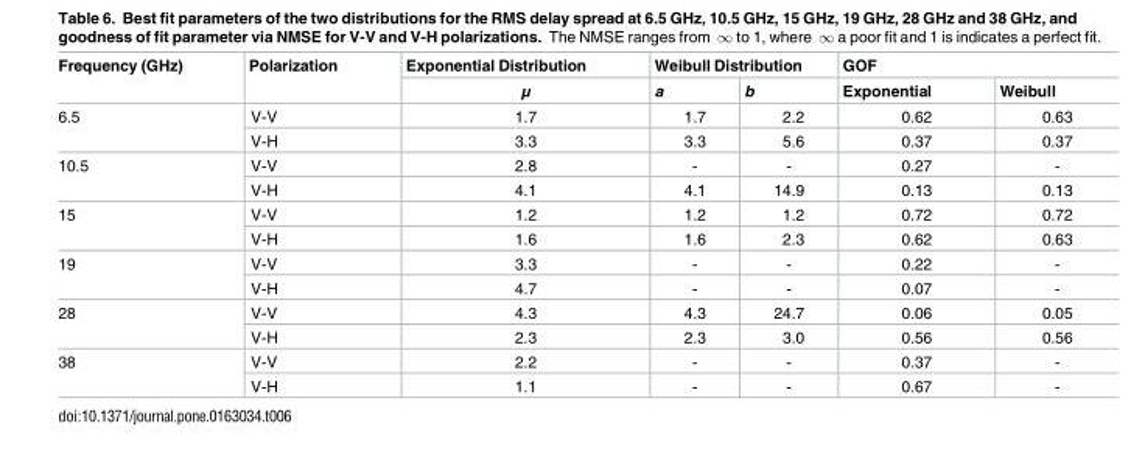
<table><thead><tr><td rowspan="2">Frequency (GHz)</td><td rowspan="2">Polarization</td><td rowspan="2">Exponential Distribution μ</td><td colspan="2">Weibull Distribution</td><td colspan="2">GOF</td></tr><tr><td>a</td><td>b</td><td>Exponential</td><td>Weibull</td></tr></thead><tbody><tr><td rowspan="2">6.5</td><td>V-V</td><td>1.7</td><td>1.7</td><td>2.2</td><td>0.62</td><td>0.63</td></tr><tr><td>V-H</td><td>3.3</td><td>3.3</td><td>5.6</td><td>0.37</td><td>0.37</td></tr><tr><td rowspan="2">10.5</td><td>V-V</td><td>2.8</td><td>-</td><td>-</td><td>0.27</td><td>-</td></tr><tr><td>V-H</td><td>4.1</td><td>4.1</td><td>14.9</td><td>0.13</td><td>0.13</td></tr><tr><td rowspan="2">15</td><td>V-V</td><td>1.2</td><td>1.2</td><td>1.2</td><td>0.72</td><td>0.72</td></tr><tr><td>V-H</td><td>1.6</td><td>1.6</td><td>2.3</td><td>0.62</td><td>0.63</td></tr><tr><td rowspan="2">19</td><td>V-V</td><td>3.3</td><td>-</td><td>-</td><td>0.22</td><td>-</td></tr><tr><td>V-H</td><td>4.7</td><td>-</td><td>-</td><td>0.07</td><td>-</td></tr><tr><td rowspan="2">28</td><td>V-V</td><td>4.3</td><td>4.3</td><td>24.7</td><td>0.06</td><td>0.05</td></tr><tr><td>V-H</td><td>2.3</td><td>2.3</td><td>3.0</td><td>0.56</td><td>0.56</td></tr><tr><td rowspan="2">38</td><td>V-V</td><td>2.2</td><td>-</td><td>-</td><td>0.37</td><td>-</td></tr><tr><td>V-H</td><td>1.1</td><td>-</td><td>-</td><td>0.67</td><td>-</td></tr></tbody></table>